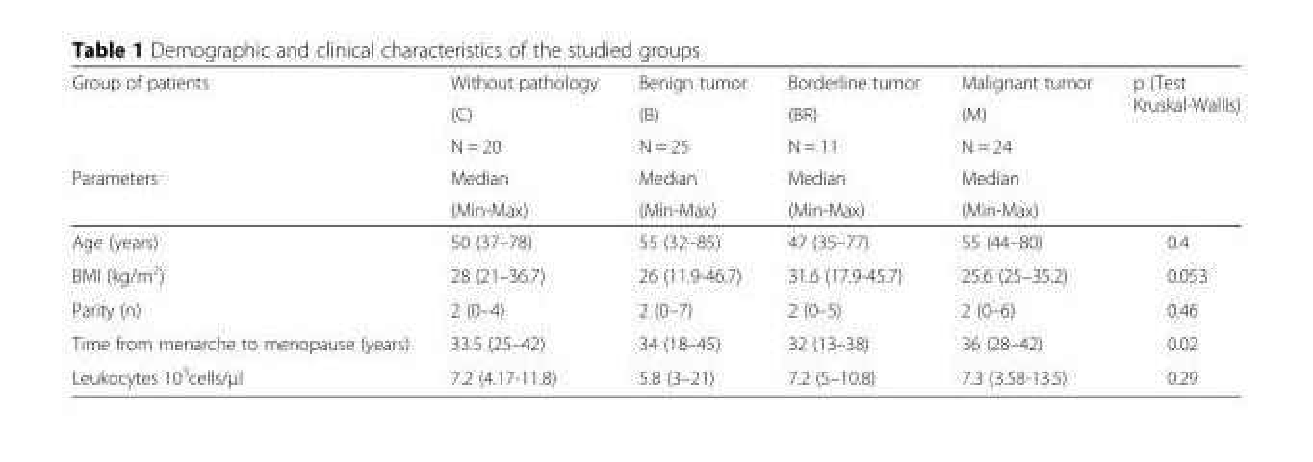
<table><thead><tr><td rowspan="5">Group of patients Parameters</td><td rowspan="5">Without pathology (C) N = 20 Median (Min-Max)</td><td rowspan="5">Benign tumor (B) N = 25 Median (Min-Max)</td><td rowspan="5">Borderline tumor (BR) N = 11 Median (Min-Max)</td><td rowspan="5">Malignant tumor (M) N = 24 Median (Min-Max)</td><td rowspan="5">p (Test Kruskal-Wallis)</td></tr><tr></tr><tr></tr><tr></tr><tr></tr></thead><tbody><tr><td>Age (years)</td><td>50 (37–78)</td><td>55 (32–85)</td><td>47 (35–77)</td><td>55 (44–80)</td><td>0.4</td></tr><tr><td>BMI (kg/m<sup>2</sup>)</td><td>28 (21–36.7)</td><td>26 (11.9-46.7)</td><td>31.6 (17.9-45.7)</td><td>25.6 (25–35.2)</td><td>0.053</td></tr><tr><td>Parity (n)</td><td>2 (0–4)</td><td>2 (0–7)</td><td>2 (0–5)</td><td>2 (0–6)</td><td>0.46</td></tr><tr><td>Time from menarche to menopause (years)</td><td>33.5 (25–42)</td><td>34 (18–45)</td><td>32 (13–38)</td><td>36 (28–42)</td><td>0.02</td></tr><tr><td>Leukocytes 10<sup>3</sup>cells/μl</td><td>7.2 (4.17-11.8)</td><td>5.8 (3–21)</td><td>7.2 (5–10.8)</td><td>7.3 (3.58-13.5)</td><td>0.29</td></tr></tbody></table>